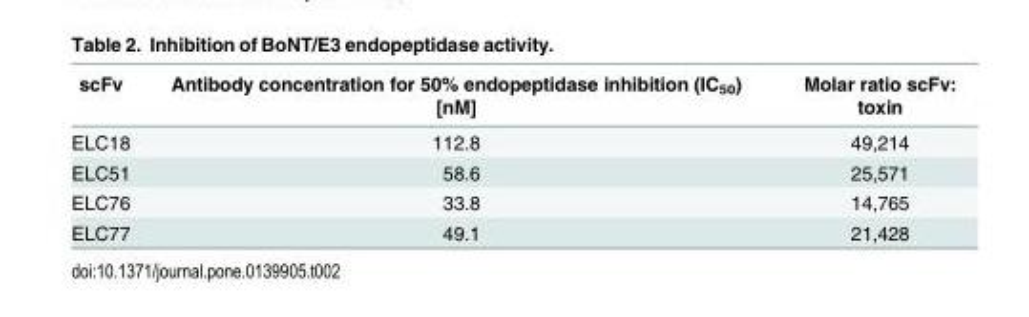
<table><thead><tr><td>scFv</td><td>Antibody concentration for 50% endopeptidase inhibition (IC<sub>50</sub>) [nM]</td><td>Molar ratio scFv: toxin</td></tr></thead><tbody><tr><td>ELC18</td><td>112.8</td><td>49,214</td></tr><tr><td>ELC51</td><td>58.6</td><td>25,571</td></tr><tr><td>ELC76</td><td>33.8</td><td>14,765</td></tr><tr><td>ELC77</td><td>49.1</td><td>21,428</td></tr></tbody></table>